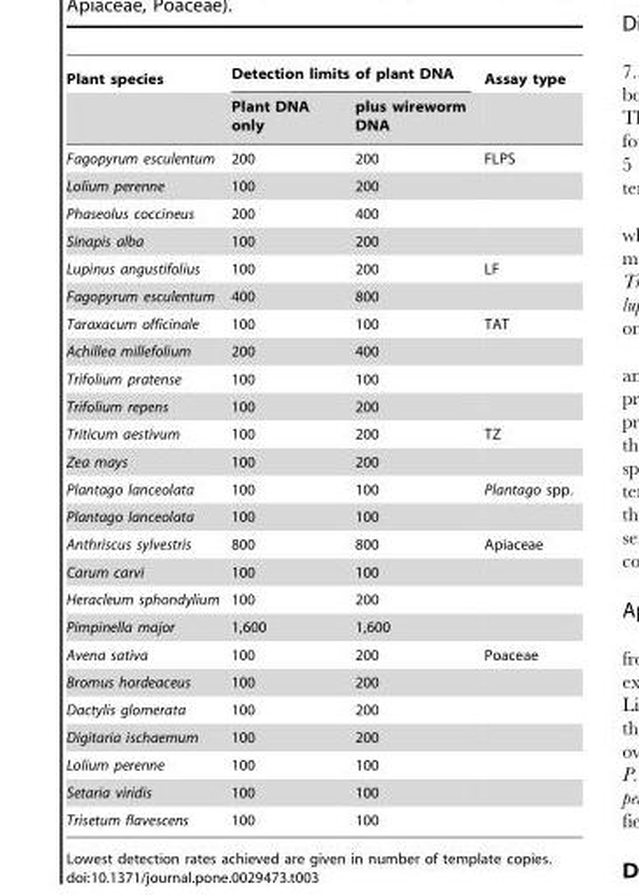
<table><thead><tr><td rowspan="2">Plant species</td><td colspan="2">Detection limits of plant DNA</td><td rowspan="2">Assay type</td></tr><tr><td>Plant DNA only</td><td>plus wireworm DNA</td></tr></thead><tbody><tr><td>Fagopyrum esculentum</td><td>200</td><td>200</td><td>FLPS</td></tr><tr><td>Lolium perenne</td><td>100</td><td>200</td><td></td></tr><tr><td>Phaseolus coccineus</td><td>200</td><td>400</td><td></td></tr><tr><td>Sinapis alba</td><td>100</td><td>200</td><td></td></tr><tr><td>Lupinus angustifolius</td><td>100</td><td>200</td><td>LF</td></tr><tr><td>Fagopyrum esculentum</td><td>400</td><td>800</td><td></td></tr><tr><td>Taraxacum officinale</td><td>100</td><td>100</td><td>TAT</td></tr><tr><td>Achillea millefolium</td><td>200</td><td>400</td><td></td></tr><tr><td>Trifolium pratense</td><td>100</td><td>100</td><td></td></tr><tr><td>Trifolium repens</td><td>100</td><td>200</td><td></td></tr><tr><td>Triticum aestivum</td><td>100</td><td>200</td><td>TZ</td></tr><tr><td>Zea mays</td><td>100</td><td>200</td><td></td></tr><tr><td>Plantago lanceolata</td><td>100</td><td>100</td><td>Plantago spp.</td></tr><tr><td>Plantago lanceolata</td><td>100</td><td>100</td><td></td></tr><tr><td>Anthriscus sylvestris</td><td>800</td><td>800</td><td>Apiaceae</td></tr><tr><td>Carum carvi</td><td>100</td><td>100</td><td></td></tr><tr><td>Heracleum sphondylium</td><td>100</td><td>200</td><td></td></tr><tr><td>Pimpinella major</td><td>1,600</td><td>1,600</td><td></td></tr><tr><td>Avena sativa</td><td>100</td><td>200</td><td>Poaceae</td></tr><tr><td>Bromus hordeaceus</td><td>100</td><td>200</td><td></td></tr><tr><td>Dactylis glomerata</td><td>100</td><td>200</td><td></td></tr><tr><td>Digitaria ischaemum</td><td>100</td><td>200</td><td></td></tr><tr><td>Lolium perenne</td><td>100</td><td>100</td><td></td></tr><tr><td>Setaria viridis</td><td>100</td><td>100</td><td></td></tr><tr><td>Trisetum flavescens</td><td>100</td><td>100</td><td></td></tr></tbody></table>